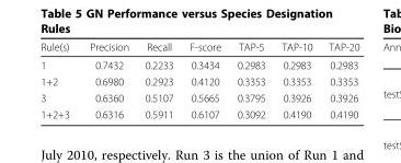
<table><thead><tr><td>Rule(s)</td><td>Precision</td><td>Recall</td><td>F-score</td><td>TAP-5</td><td>TAP-10</td><td>TAP-20</td></tr></thead><tbody><tr><td>1</td><td>0.7432</td><td>0.2233</td><td>0.3434</td><td>0.2983</td><td>0.2983</td><td>0.2983</td></tr><tr><td>1+2</td><td>0.6980</td><td>0.2923</td><td>0.4120</td><td>0.3353</td><td>0.3353</td><td>0.3353</td></tr><tr><td>3</td><td>0.6360</td><td>0.5107</td><td>0.5665</td><td>0.3795</td><td>0.3926</td><td>0.3926</td></tr><tr><td>1+2+3</td><td>0.6316</td><td>0.5911</td><td>0.6107</td><td>0.3092</td><td>0.4190</td><td>0.4190</td></tr></tbody></table>